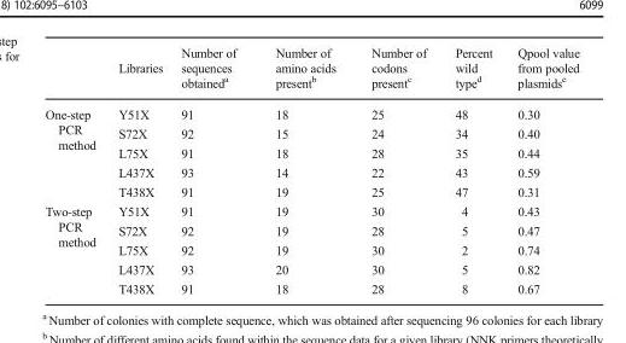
<table><thead><tr><td></td><td>Libraries</td><td>Number of sequences obtained<sup>a</sup></td><td>Number of amino acids present<sup>b</sup></td><td>Number of codons present<sup>c</sup></td><td>Percent wild type<sup>d</sup></td><td>Qpool value from pooled plasmids<sup>e</sup></td></tr></thead><tbody><tr><td rowspan="5">One-step PCR method</td><td>Y51X</td><td>91</td><td>18</td><td>25</td><td>48</td><td>0.30</td></tr><tr><td>S72X</td><td>92</td><td>15</td><td>24</td><td>34</td><td>0.40</td></tr><tr><td>L75X</td><td>91</td><td>18</td><td>28</td><td>35</td><td>0.44</td></tr><tr><td>L437X</td><td>93</td><td>14</td><td>22</td><td>43</td><td>0.59</td></tr><tr><td>T438X</td><td>91</td><td>19</td><td>25</td><td>47</td><td>0.31</td></tr><tr><td rowspan="5">Two-step PCR method</td><td>Y51X</td><td>91</td><td>19</td><td>30</td><td>4</td><td>0.43</td></tr><tr><td>S72X</td><td>92</td><td>19</td><td>28</td><td>5</td><td>0.47</td></tr><tr><td>L75X</td><td>92</td><td>19</td><td>30</td><td>2</td><td>0.74</td></tr><tr><td>L437X</td><td>93</td><td>20</td><td>30</td><td>5</td><td>0.82</td></tr><tr><td>T438X</td><td>91</td><td>18</td><td>28</td><td>8</td><td>0.67</td></tr></tbody></table>